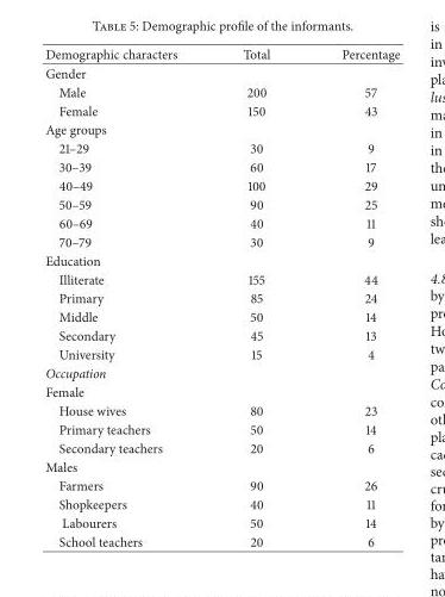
<table><thead><tr><td>Demographic characters</td><td>Total</td><td>Percentage</td></tr></thead><tbody><tr><td colspan="3">Gender</td></tr><tr><td>Male</td><td>200</td><td>57</td></tr><tr><td>Female</td><td>150</td><td>43</td></tr><tr><td colspan="3">Age groups</td></tr><tr><td>21–29</td><td>30</td><td>9</td></tr><tr><td>30–39</td><td>60</td><td>17</td></tr><tr><td>40–49</td><td>100</td><td>29</td></tr><tr><td>50–59</td><td>90</td><td>25</td></tr><tr><td>60–69</td><td>40</td><td>11</td></tr><tr><td>70–79</td><td>30</td><td>9</td></tr><tr><td colspan="3">Education</td></tr><tr><td>Illiterate</td><td>155</td><td>44</td></tr><tr><td>Primary</td><td>85</td><td>24</td></tr><tr><td>Middle</td><td>50</td><td>14</td></tr><tr><td>Secondary</td><td>45</td><td>13</td></tr><tr><td>University</td><td>15</td><td>4</td></tr><tr><td colspan="3">Occupation</td></tr><tr><td colspan="3">Female</td></tr><tr><td>House wives</td><td>80</td><td>23</td></tr><tr><td>Primary teachers</td><td>50</td><td>14</td></tr><tr><td>Secondary teachers</td><td>20</td><td>6</td></tr><tr><td colspan="3">Males</td></tr><tr><td>Farmers</td><td>90</td><td>26</td></tr><tr><td>Shopkeepers</td><td>40</td><td>11</td></tr><tr><td>Labourers</td><td>50</td><td>14</td></tr><tr><td>School teachers</td><td>20</td><td>6</td></tr></tbody></table>